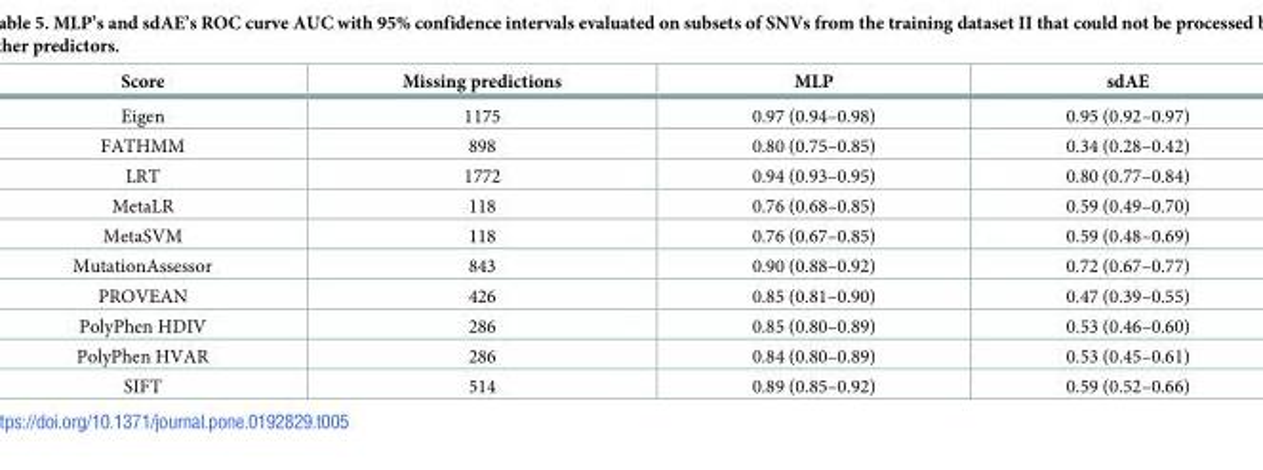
<table><thead><tr><td>Score</td><td>Missing predictions</td><td>MLP</td><td>sdAE</td></tr></thead><tbody><tr><td>Eigen</td><td>1175</td><td>0.97 (0.94–0.98)</td><td>0.95 (0.92–0.97)</td></tr><tr><td>FATHMM</td><td>898</td><td>0.80 (0.75–0.85)</td><td>0.34 (0.28–0.42)</td></tr><tr><td>LRT</td><td>1772</td><td>0.94 (0.93–0.95)</td><td>0.80 (0.77–0.84)</td></tr><tr><td>MetaLR</td><td>118</td><td>0.76 (0.68–0.85)</td><td>0.59 (0.49–0.70)</td></tr><tr><td>MetaSVM</td><td>118</td><td>0.76 (0.67–0.85)</td><td>0.59 (0.48–0.69)</td></tr><tr><td>MutationAssessor</td><td>843</td><td>0.90 (0.88–0.92)</td><td>0.72 (0.67–0.77)</td></tr><tr><td>PROVEAN</td><td>426</td><td>0.85 (0.81–0.90)</td><td>0.47 (0.39–0.55)</td></tr><tr><td>PolyPhen HDIV</td><td>286</td><td>0.85 (0.80–0.89)</td><td>0.53 (0.46–0.60)</td></tr><tr><td>PolyPhen HVAR</td><td>286</td><td>0.84 (0.80–0.89)</td><td>0.53 (0.45–0.61)</td></tr><tr><td>SIFT</td><td>514</td><td>0.89 (0.85–0.92)</td><td>0.59 (0.52–0.66)</td></tr></tbody></table>